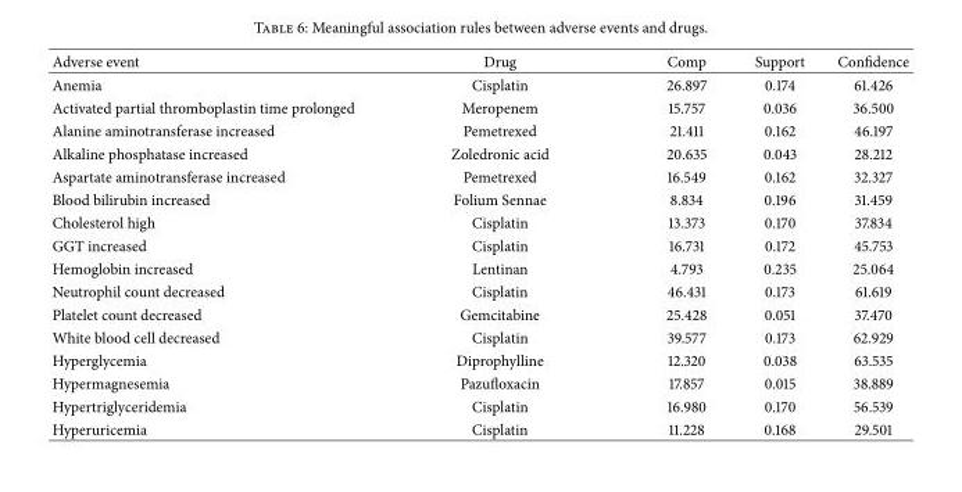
<table><thead><tr><td>Adverse event</td><td>Drug</td><td>Comp</td><td>Support</td><td>Confidence</td></tr></thead><tbody><tr><td>Anemia</td><td>Cisplatin</td><td>26.897</td><td>0.174</td><td>61.426</td></tr><tr><td>Activated partial thromboplastin time prolonged</td><td>Meropenem</td><td>15.757</td><td>0.036</td><td>36.500</td></tr><tr><td>Alanine aminotransferase increased</td><td>Pemetrexed</td><td>21.411</td><td>0.162</td><td>46.197</td></tr><tr><td>Alkaline phosphatase increased</td><td>Zoledronic acid</td><td>20.635</td><td>0.043</td><td>28.212</td></tr><tr><td>Aspartate aminotransferase increased</td><td>Pemetrexed</td><td>16.549</td><td>0.162</td><td>32.327</td></tr><tr><td>Blood bilirubin increased</td><td>Folium Sennae</td><td>8.834</td><td>0.196</td><td>31.459</td></tr><tr><td>Cholesterol high</td><td>Cisplatin</td><td>13.373</td><td>0.170</td><td>37.834</td></tr><tr><td>GGT increased</td><td>Cisplatin</td><td>16.731</td><td>0.172</td><td>45.753</td></tr><tr><td>Hemoglobin increased</td><td>Lentinan</td><td>4.793</td><td>0.235</td><td>25.064</td></tr><tr><td>Neutrophil count decreased</td><td>Cisplatin</td><td>46.431</td><td>0.173</td><td>61.619</td></tr><tr><td>Platelet count decreased</td><td>Gemcitabine</td><td>25.428</td><td>0.051</td><td>37.470</td></tr><tr><td>White blood cell decreased</td><td>Cisplatin</td><td>39.577</td><td>0.173</td><td>62.929</td></tr><tr><td>Hyperglycemia</td><td>Diprophylline</td><td>12.320</td><td>0.038</td><td>63.535</td></tr><tr><td>Hypermagnesemia</td><td>Pazufloxacin</td><td>17.857</td><td>0.015</td><td>38.889</td></tr><tr><td>Hypertriglyceridemia</td><td>Cisplatin</td><td>16.980</td><td>0.170</td><td>56.539</td></tr><tr><td>Hyperuricemia</td><td>Cisplatin</td><td>11.228</td><td>0.168</td><td>29.501</td></tr></tbody></table>